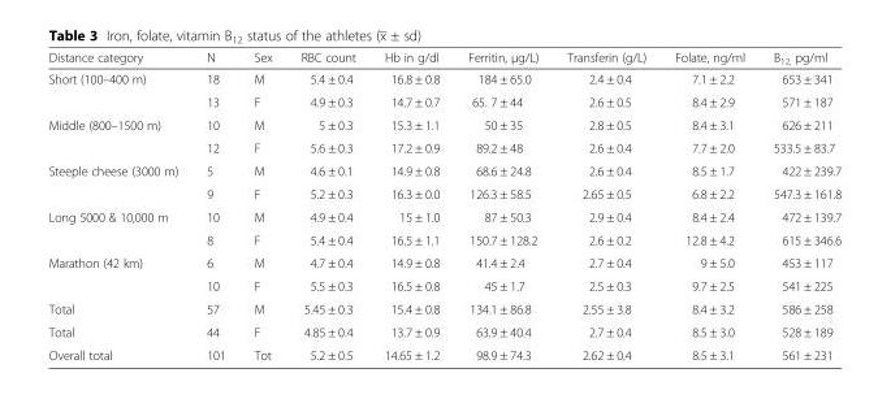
<table><thead><tr><td>Distance category</td><td>N</td><td>Sex</td><td>RBC count</td><td>Hb in g/dl</td><td>Ferritin, μg/L)</td><td>Transferin (g/L)</td><td>Folate, ng/ml</td><td>B<sub>12,</sub> pg/ml</td></tr></thead><tbody><tr><td rowspan="2">Short (100–400 m)</td><td>18</td><td>M</td><td>5.4 ± 0.4</td><td>16.8 ± 0.8</td><td>184 ± 65.0</td><td>2.4 ± 0.4</td><td>7.1 ± 2.2</td><td>653 ± 341</td></tr><tr><td>13</td><td>F</td><td>4.9 ± 0.3</td><td>14.7 ± 0.7</td><td>65. 7 ± 44</td><td>2.6 ± 0.5</td><td>8.4 ± 2.9</td><td>571 ± 187</td></tr><tr><td rowspan="2">Middle (800–1500 m)</td><td>10</td><td>M</td><td>5 ± 0.3</td><td>15.3 ± 1.1</td><td>50 ± 35</td><td>2.8 ± 0.5</td><td>8.4 ± 3.1</td><td>626 ± 211</td></tr><tr><td>12</td><td>F</td><td>5.6 ± 0.3</td><td>17.2 ± 0.9</td><td>89.2 ± 48</td><td>2.6 ± 0.4</td><td>7.7 ± 2.0</td><td>533.5 ± 83.7</td></tr><tr><td rowspan="2">Steeple cheese (3000 m)</td><td>5</td><td>M</td><td>4.6 ± 0.1</td><td>14.9 ± 0.8</td><td>68.6 ± 24.8</td><td>2.6 ± 0.4</td><td>8.5 ± 1.7</td><td>422 ± 239.7</td></tr><tr><td>9</td><td>F</td><td>5.2 ± 0.3</td><td>16.3 ± 0.0</td><td>126.3 ± 58.5</td><td>2.65 ± 0.5</td><td>6.8 ± 2.2</td><td>547.3 ± 161.8</td></tr><tr><td rowspan="2">Long 5000 &amp; 10,000 m</td><td>10</td><td>M</td><td>4.9 ± 0.4</td><td>15 ± 1.0</td><td>87 ± 50.3</td><td>2.9 ± 0.4</td><td>8.4 ± 2.4</td><td>472 ± 139.7</td></tr><tr><td>8</td><td>F</td><td>5.4 ± 0.4</td><td>16.5 ± 1.1</td><td>150.7 ± 128.2</td><td>2.6 ± 0.2</td><td>12.8 ± 4.2</td><td>615 ± 346.6</td></tr><tr><td rowspan="2">Marathon (42 km)</td><td>6</td><td>M</td><td>4.7 ± 0.4</td><td>14.9 ± 0.8</td><td>41.4 ± 2.4</td><td>2.7 ± 0.4</td><td>9 ± 5.0</td><td>453 ± 117</td></tr><tr><td>10</td><td>F</td><td>5.5 ± 0.3</td><td>16.5 ± 0.8</td><td>45 ± 1.7</td><td>2.5 ± 0.3</td><td>9.7 ± 2.5</td><td>541 ± 225</td></tr><tr><td>Total</td><td>57</td><td>M</td><td>5.45 ± 0.3</td><td>15.4 ± 0.8</td><td>134.1 ± 86.8</td><td>2.55 ± 3.8</td><td>8.4 ± 3.2</td><td>586 ± 258</td></tr><tr><td>Total</td><td>44</td><td>F</td><td>4.85 ± 0.4</td><td>13.7 ± 0.9</td><td>63.9 ± 40.4</td><td>2.7 ± 0.4</td><td>8.5 ± 3.0</td><td>528 ± 189</td></tr><tr><td>Overall total</td><td>101</td><td>Tot</td><td>5.2 ± 0.5</td><td>14.65 ± 1.2</td><td>98.9 ± 74.3</td><td>2.62 ± 0.4</td><td>8.5 ± 3.1</td><td>561 ± 231</td></tr></tbody></table>